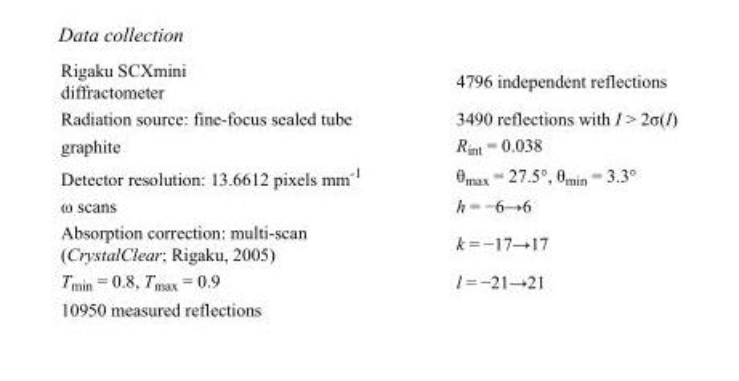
<table><tbody><tr><td>Rigaku SCXmini diffractometer</td><td>4796 independent reflections</td></tr><tr><td>Radiation source: fine-focus sealed tube</td><td>3490 reflections with I &gt; 2σ(I)</td></tr><tr><td>graphite</td><td>R<sub>int</sub> = 0.038</td></tr><tr><td>Detector resolution: 13.6612 pixels mm<sup>-1</sup></td><td>θ<sub>max</sub> = 27.5°, θ<sub>min</sub> = 3.3°</td></tr><tr><td>ω scans</td><td>h = −6→6</td></tr><tr><td>Absorption correction: multi-scan (CrystalClear; Rigaku, 2005)</td><td>k = −17→17</td></tr><tr><td>T<sub>min</sub> = 0.8, T<sub>max</sub> = 0.9</td><td>l = −21→21</td></tr><tr><td>10950 measured reflections</td><td></td></tr></tbody></table>